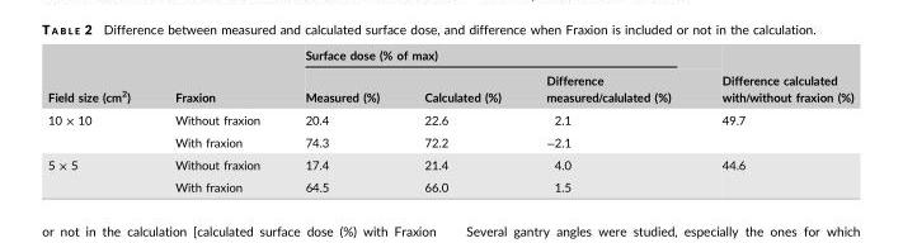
<table><thead><tr><td rowspan="2">Field size (cm<sup>2</sup>)</td><td rowspan="2">Fraxion</td><td colspan="3">Surface dose (% of max)</td><td rowspan="2">Difference calculated with/without fraxion (%)</td></tr><tr><td>Measured (%)</td><td>Calculated (%)</td><td>Difference measured/calulated (%)</td></tr></thead><tbody><tr><td rowspan="2">10 × 10</td><td>Without fraxion</td><td>20.4</td><td>22.6</td><td>2.1</td><td rowspan="2">49.7</td></tr><tr><td>With fraxion</td><td>74.3</td><td>72.2</td><td>−2.1</td></tr><tr><td rowspan="2">5 × 5</td><td>Without fraxion</td><td>17.4</td><td>21.4</td><td>4.0</td><td rowspan="2">44.6</td></tr><tr><td>With fraxion</td><td>64.5</td><td>66.0</td><td>1.5</td></tr></tbody></table>